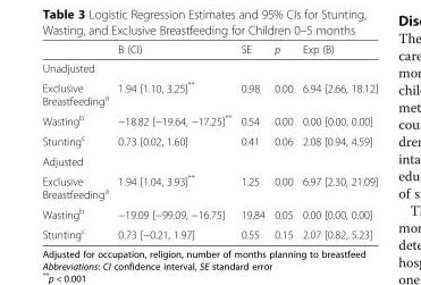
<table><thead><tr><td></td><td>B (CI)</td><td>SE</td><td>p</td><td>Exp (B)</td></tr></thead><tbody><tr><td colspan="5">Unadjusted</td></tr><tr><td>Exclusive Breastfeeding<sup>a</sup></td><td>1.94 [1.10, 3.25]**</td><td>0.98</td><td>0.00</td><td>6.94 [2.66, 18.12]</td></tr><tr><td>Wasting<sup>b</sup></td><td>−18.82 [−19.64, −17.25]**</td><td>0.54</td><td>0.00</td><td>0.00 [0.00, 0.00]</td></tr><tr><td>Stunting<sup>c</sup></td><td>0.73 [0.02, 1.60]</td><td>0.41</td><td>0.06</td><td>2.08 [0.94, 4.59]</td></tr><tr><td colspan="5">Adjusted</td></tr><tr><td>Exclusive Breastfeeding<sup>a</sup></td><td>1.94 [1.04, 3.93]**</td><td>1.25</td><td>0.00</td><td>6.97 [2.30, 21.09]</td></tr><tr><td>Wasting<sup>b</sup></td><td>−19.09 [−99.09, −16.75]</td><td>19.84</td><td>0.05</td><td>0.00 [0.00, 0.00]</td></tr><tr><td>Stunting<sup>c</sup></td><td>0.73 [−0.21, 1.97]</td><td>0.55</td><td>0.15</td><td>2.07 [0.82, 5.23]</td></tr></tbody></table>